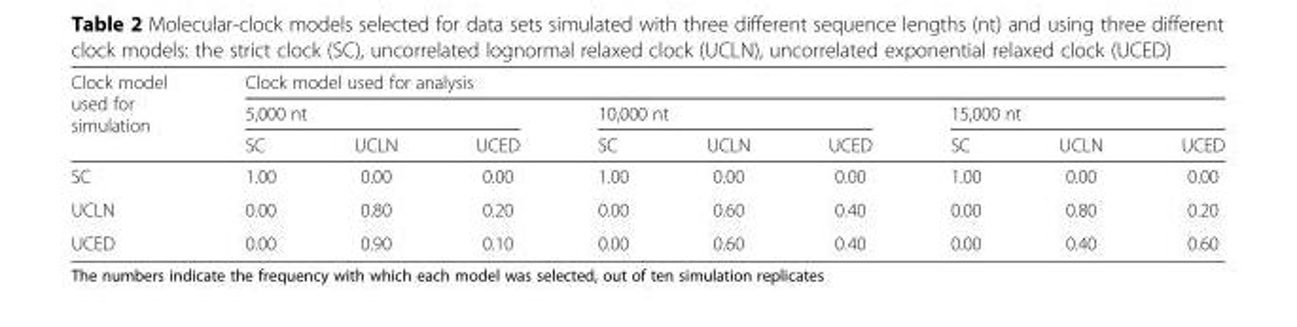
<table><thead><tr><td rowspan="3">Clock model used for simulation</td><td colspan="9">Clock model used for analysis</td></tr><tr><td colspan="3">5,000 nt</td><td colspan="3">10,000 nt</td><td colspan="3">15,000 nt</td></tr><tr><td>SC</td><td>UCLN</td><td>UCED</td><td>SC</td><td>UCLN</td><td>UCED</td><td>SC</td><td>UCLN</td><td>UCED</td></tr></thead><tbody><tr><td>SC</td><td>1.00</td><td>0.00</td><td>0.00</td><td>1.00</td><td>0.00</td><td>0.00</td><td>1.00</td><td>0.00</td><td>0.00</td></tr><tr><td>UCLN</td><td>0.00</td><td>0.80</td><td>0.20</td><td>0.00</td><td>0.60</td><td>0.40</td><td>0.00</td><td>0.80</td><td>0.20</td></tr><tr><td>UCED</td><td>0.00</td><td>0.90</td><td>0.10</td><td>0.00</td><td>0.60</td><td>0.40</td><td>0.00</td><td>0.40</td><td>0.60</td></tr></tbody></table>